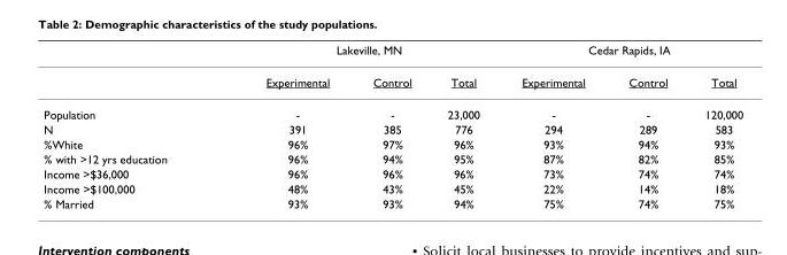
<table><thead><tr><td rowspan="2"></td><td colspan="3">Lakeville, MN</td><td colspan="3">Cedar Rapids, IA</td></tr><tr><td>Experimental</td><td>Control</td><td>Total</td><td>Experimental</td><td>Control</td><td>Total</td></tr></thead><tbody><tr><td>Population</td><td>-</td><td>-</td><td>23,000</td><td>-</td><td>-</td><td>120,000</td></tr><tr><td>N</td><td>391</td><td>385</td><td>776</td><td>294</td><td>289</td><td>583</td></tr><tr><td>%White</td><td>96%</td><td>97%</td><td>96%</td><td>93%</td><td>94%</td><td>93%</td></tr><tr><td>% with &gt;12 yrs education</td><td>96%</td><td>94%</td><td>95%</td><td>87%</td><td>82%</td><td>85%</td></tr><tr><td>Income &gt;$36,000</td><td>96%</td><td>96%</td><td>96%</td><td>73%</td><td>74%</td><td>74%</td></tr><tr><td>Income &gt;$100,000</td><td>48%</td><td>43%</td><td>45%</td><td>22%</td><td>14%</td><td>18%</td></tr><tr><td>% Married</td><td>93%</td><td>93%</td><td>94%</td><td>75%</td><td>74%</td><td>75%</td></tr></tbody></table>